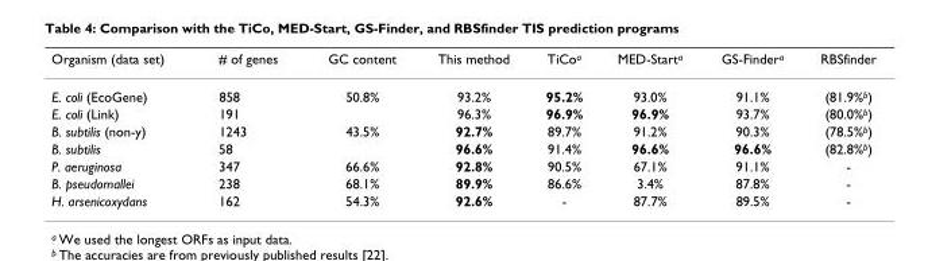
<table><thead><tr><td>Organism (data set)</td><td># of genes</td><td>GC content</td><td>This method</td><td>TiCo<sup>a</sup></td><td>MED-Start<sup>a</sup></td><td>GS-Finder<sup>a</sup></td><td>RBSfinder</td></tr></thead><tbody><tr><td>E. coli (EcoGene)</td><td>858</td><td>50.8%</td><td>93.2%</td><td>95.2%</td><td>93.0%</td><td>91.1%</td><td>(81.9%<sup>b</sup>)</td></tr><tr><td>E. coli (Link)</td><td>191</td><td></td><td>96.3%</td><td>96.9%</td><td>96.9%</td><td>93.7%</td><td>(80.0%<sup>b</sup>)</td></tr><tr><td>B. subtilis (non-y)</td><td>1243</td><td>43.5%</td><td>92.7%</td><td>89.7%</td><td>91.2%</td><td>90.3%</td><td>(78.5%<sup>b</sup>)</td></tr><tr><td>B. subtilis</td><td>58</td><td></td><td>96.6%</td><td>91.4%</td><td>96.6%</td><td>96.6%</td><td>(82.8%<sup>b</sup>)</td></tr><tr><td>P. aeruginosa</td><td>347</td><td>66.6%</td><td>92.8%</td><td>90.5%</td><td>67.1%</td><td>91.1%</td><td>-</td></tr><tr><td>B. pseudomallei</td><td>238</td><td>68.1%</td><td>89.9%</td><td>86.6%</td><td>3.4%</td><td>87.8%</td><td>-</td></tr><tr><td>H. arsenicoxydans</td><td>162</td><td>54.3%</td><td>92.6%</td><td>-</td><td>87.7%</td><td>89.5%</td><td>-</td></tr></tbody></table>